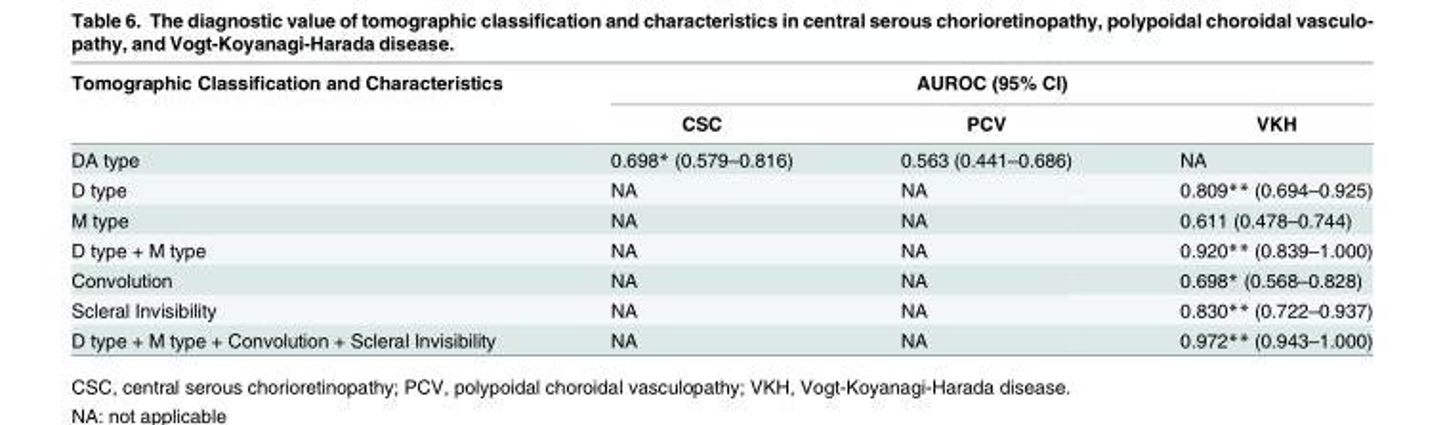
<table><thead><tr><td rowspan="2">Tomographic Classification and Characteristics</td><td colspan="3">AUROC (95% CI)</td></tr><tr><td>CSC</td><td>PCV</td><td>VKH</td></tr></thead><tbody><tr><td>DA type</td><td>0.698* (0.579–0.816)</td><td>0.563 (0.441–0.686)</td><td>NA</td></tr><tr><td>D type</td><td>NA</td><td>NA</td><td>0.809** (0.694–0.925)</td></tr><tr><td>M type</td><td>NA</td><td>NA</td><td>0.611 (0.478–0.744)</td></tr><tr><td>D type + M type</td><td>NA</td><td>NA</td><td>0.920** (0.839–1.000)</td></tr><tr><td>Convolution</td><td>NA</td><td>NA</td><td>0.698* (0.568–0.828)</td></tr><tr><td>Scleral Invisibility</td><td>NA</td><td>NA</td><td>0.830** (0.722–0.937)</td></tr><tr><td>D type + M type + Convolution + Scleral Invisibility</td><td>NA</td><td>NA</td><td>0.972** (0.943–1.000)</td></tr></tbody></table>